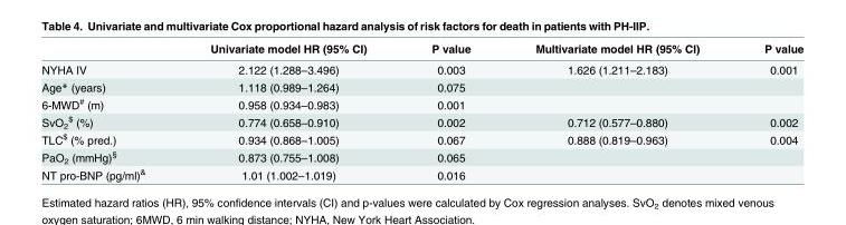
<table><thead><tr><td></td><td>Univariate model HR (95% CI)</td><td>P value</td><td>Multivariate model HR (95% CI)</td><td>P value</td></tr></thead><tbody><tr><td>NYHA IV</td><td>2.122 (1.288–3.496)</td><td>0.003</td><td>1.626 (1.211–2.183)</td><td>0.001</td></tr><tr><td>Age* (years)</td><td>1.118 (0.989–1.264)</td><td>0.075</td><td></td><td></td></tr><tr><td>6-MWD<sup>#</sup> (m)</td><td>0.958 (0.934–0.983)</td><td>0.001</td><td></td><td></td></tr><tr><td>SvO<sub>2</sub> <sup>$</sup> (%)</td><td>0.774 (0.658–0.910)</td><td>0.002</td><td>0.712 (0.577–0.880)</td><td>0.002</td></tr><tr><td>TLC<sup>$</sup> (% pred.)</td><td>0.934 (0.868–1.005)</td><td>0.067</td><td>0.888 (0.819–0.963)</td><td>0.004</td></tr><tr><td>PaO<sub>2</sub> (mmHg)<sup>§</sup></td><td>0.873 (0.755–1.008)</td><td>0.065</td><td></td><td></td></tr><tr><td>NT pro-BNP (pg/ml)<sup>&amp;</sup></td><td>1.01 (1.002–1.019)</td><td>0.016</td><td></td><td></td></tr></tbody></table>